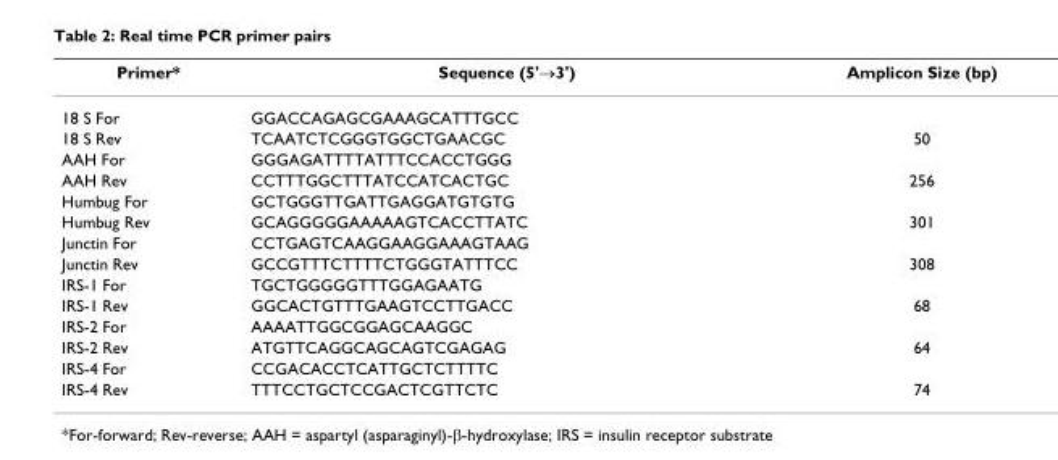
<table><thead><tr><td>Primer*</td><td>Sequence (5&#x27;→3&#x27;)</td><td>Amplicon Size (bp)</td></tr></thead><tbody><tr><td>18 S For</td><td>GGACCAGAGCGAAAGCATTTGCC</td><td></td></tr><tr><td>18 S Rev</td><td>TCAATCTCGGGTGGCTGAACGC</td><td>50</td></tr><tr><td>AAH For</td><td>GGGAGATTTTATTTCCACCTGGG</td><td></td></tr><tr><td>AAH Rev</td><td>CCTTTGGCTTTATCCATCACTGC</td><td>256</td></tr><tr><td>Humbug For</td><td>GCTGGGTTGATTGAGGATGTGTG</td><td></td></tr><tr><td>Humbug Rev</td><td>GCAGGGGGAAAAAGTCACCTTATC</td><td>301</td></tr><tr><td>Junctin For</td><td>CCTGAGTCAAGGAAGGAAAGTAAG</td><td></td></tr><tr><td>Junctin Rev</td><td>GCCGTTTCTTTTCTGGGTATTTCC</td><td>308</td></tr><tr><td>IRS-1 For</td><td>TGCTGGGGGTTTGGAGAATG</td><td></td></tr><tr><td>IRS-1 Rev</td><td>GGCACTGTTTGAAGTCCTTGACC</td><td>68</td></tr><tr><td>IRS-2 For</td><td>AAAATTGGCGGAGCAAGGC</td><td></td></tr><tr><td>IRS-2 Rev</td><td>ATGTTCAGGCAGCAGTCGAGAG</td><td>64</td></tr><tr><td>IRS-4 For</td><td>CCGACACCTCATTGCTCTTTTC</td><td></td></tr><tr><td>IRS-4 Rev</td><td>TTTCCTGCTCCGACTCGTTCTC</td><td>74</td></tr></tbody></table>